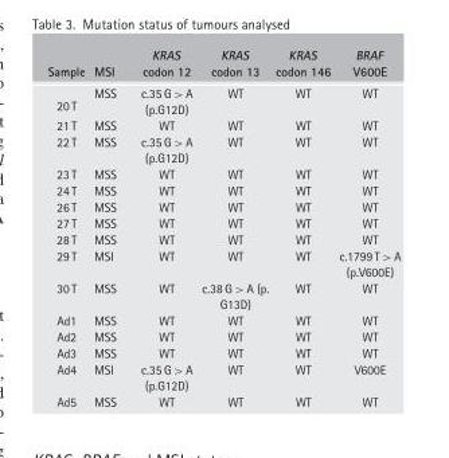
<table><thead><tr><td>Sample</td><td>MSI</td><td>KRAS codon 12</td><td>KRAS codon 13</td><td>KRAS codon 146</td><td>BRAF V600E</td></tr></thead><tbody><tr><td>20 T</td><td>MSS</td><td>c.35 G &gt; A (p.G12D)</td><td>WT</td><td>WT</td><td>WT</td></tr><tr><td>21 T</td><td>MSS</td><td>WT</td><td>WT</td><td>WT</td><td>WT</td></tr><tr><td>22 T</td><td>MSS</td><td>c.35 G &gt; A (p.G12D)</td><td>WT</td><td>WT</td><td>WT</td></tr><tr><td>23 T</td><td>MSS</td><td>WT</td><td>WT</td><td>WT</td><td>WT</td></tr><tr><td>24 T</td><td>MSS</td><td>WT</td><td>WT</td><td>WT</td><td>WT</td></tr><tr><td>26 T</td><td>MSS</td><td>WT</td><td>WT</td><td>WT</td><td>WT</td></tr><tr><td>27 T</td><td>MSS</td><td>WT</td><td>WT</td><td>WT</td><td>WT</td></tr><tr><td>28 T</td><td>MSS</td><td>WT</td><td>WT</td><td>WT</td><td>WT</td></tr><tr><td>29 T</td><td>MSI</td><td>WT</td><td>WT</td><td>WT</td><td>c.1799 T &gt; A (p.V600E)</td></tr><tr><td>30 T</td><td>MSS</td><td>WT</td><td>c.38 G &gt; A (p. G13D)</td><td>WT</td><td>WT</td></tr><tr><td>Ad1</td><td>MSS</td><td>WT</td><td>WT</td><td>WT</td><td>WT</td></tr><tr><td>Ad2</td><td>MSS</td><td>WT</td><td>WT</td><td>WT</td><td>WT</td></tr><tr><td>Ad3</td><td>MSS</td><td>WT</td><td>WT</td><td>WT</td><td>WT</td></tr><tr><td>Ad4</td><td>MSI</td><td>c.35 G &gt; A (p.G12D)</td><td>WT</td><td>WT</td><td>V600E</td></tr><tr><td>Ad5</td><td>MSS</td><td>WT</td><td>WT</td><td>WT</td><td>WT</td></tr></tbody></table>